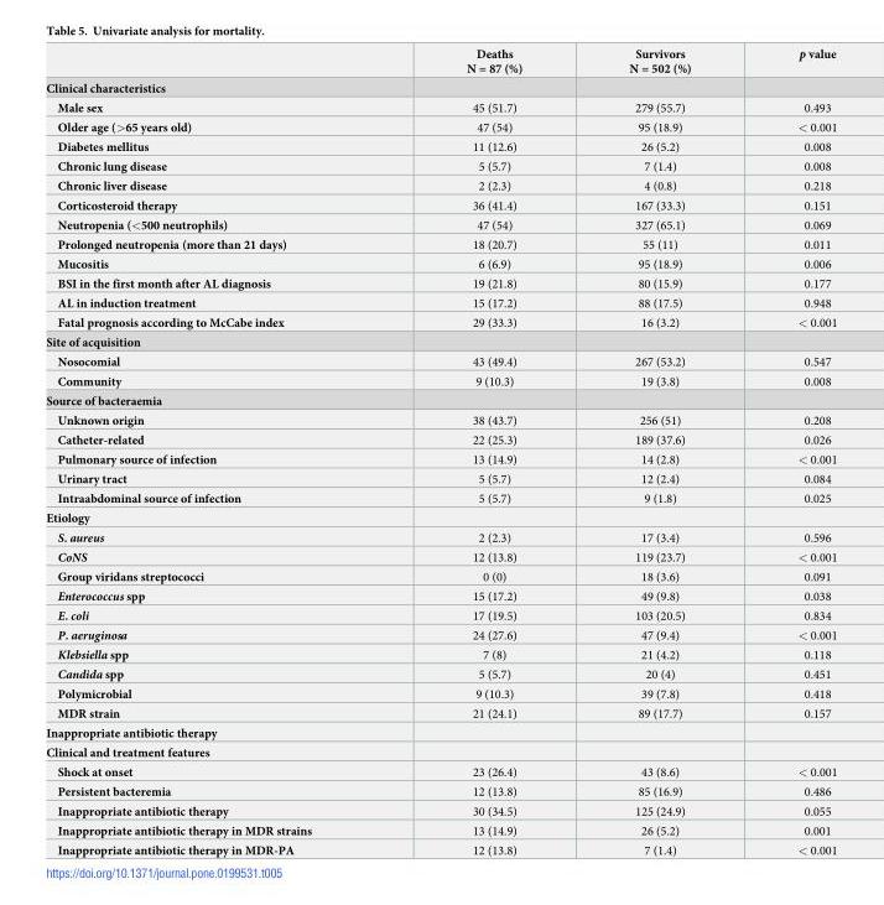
<table><thead><tr><td></td><td>Deaths N = 87 (%)</td><td>Survivors N = 502 (%)</td><td>p value</td></tr></thead><tbody><tr><td colspan="4">Clinical characteristics</td></tr><tr><td>Male sex</td><td>45 (51.7)</td><td>279 (55.7)</td><td>0.493</td></tr><tr><td>Older age (&gt;65 years old)</td><td>47 (54)</td><td>95 (18.9)</td><td>&lt; 0.001</td></tr><tr><td>Diabetes mellitus</td><td>11 (12.6)</td><td>26 (5.2)</td><td>0.008</td></tr><tr><td>Chronic lung disease</td><td>5 (5.7)</td><td>7 (1.4)</td><td>0.008</td></tr><tr><td>Chronic liver disease</td><td>2 (2.3)</td><td>4 (0.8)</td><td>0.218</td></tr><tr><td>Corticosteroid therapy</td><td>36 (41.4)</td><td>167 (33.3)</td><td>0.151</td></tr><tr><td>Neutropenia (&lt;500 neutrophils)</td><td>47 (54)</td><td>327 (65.1)</td><td>0.069</td></tr><tr><td>Prolonged neutropenia (more than 21 days)</td><td>18 (20.7)</td><td>55 (11)</td><td>0.011</td></tr><tr><td>Mucositis</td><td>6 (6.9)</td><td>95 (18.9)</td><td>0.006</td></tr><tr><td>BSI in the first month after AL diagnosis</td><td>19 (21.8)</td><td>80 (15.9)</td><td>0.177</td></tr><tr><td>AL in induction treatment</td><td>15 (17.2)</td><td>88 (17.5)</td><td>0.948</td></tr><tr><td>Fatal prognosis according to McCabe index</td><td>29 (33.3)</td><td>16 (3.2)</td><td>&lt; 0.001</td></tr><tr><td colspan="4">Site of acquisition</td></tr><tr><td>Nosocomial</td><td>43 (49.4)</td><td>267 (53.2)</td><td>0.547</td></tr><tr><td>Community</td><td>9 (10.3)</td><td>19 (3.8)</td><td>0.008</td></tr><tr><td colspan="4">Source of bacteraemia</td></tr><tr><td>Unknown origin</td><td>38 (43.7)</td><td>256 (51)</td><td>0.208</td></tr><tr><td>Catheter-related</td><td>22 (25.3)</td><td>189 (37.6)</td><td>0.026</td></tr><tr><td>Pulmonary source of infection</td><td>13 (14.9)</td><td>14 (2.8)</td><td>&lt; 0.001</td></tr><tr><td>Urinary tract</td><td>5 (5.7)</td><td>12 (2.4)</td><td>0.084</td></tr><tr><td>Intraabdominal source of infection</td><td>5 (5.7)</td><td>9 (1.8)</td><td>0.025</td></tr><tr><td colspan="4">Etiology</td></tr><tr><td>S. aureus</td><td>2 (2.3)</td><td>17 (3.4)</td><td>0.596</td></tr><tr><td>CoNS</td><td>12 (13.8)</td><td>119 (23.7)</td><td>&lt; 0.001</td></tr><tr><td>Group viridans streptococci</td><td>0 (0)</td><td>18 (3.6)</td><td>0.091</td></tr><tr><td>Enterococcus spp</td><td>15 (17.2)</td><td>49 (9.8)</td><td>0.038</td></tr><tr><td>E. coli</td><td>17 (19.5)</td><td>103 (20.5)</td><td>0.834</td></tr><tr><td>P. aeruginosa</td><td>24 (27.6)</td><td>47 (9.4)</td><td>&lt; 0.001</td></tr><tr><td>Klebsiella spp</td><td>7 (8)</td><td>21 (4.2)</td><td>0.118</td></tr><tr><td>Candida spp</td><td>5 (5.7)</td><td>20 (4)</td><td>0.451</td></tr><tr><td>Polymicrobial</td><td>9 (10.3)</td><td>39 (7.8)</td><td>0.418</td></tr><tr><td>MDR strain</td><td>21 (24.1)</td><td>89 (17.7)</td><td>0.157</td></tr><tr><td colspan="4">Inappropriate antibiotic therapy</td></tr><tr><td colspan="4">Clinical and treatment features</td></tr><tr><td>Shock at onset</td><td>23 (26.4)</td><td>43 (8.6)</td><td>&lt; 0.001</td></tr><tr><td>Persistent bacteremia</td><td>12 (13.8)</td><td>85 (16.9)</td><td>0.486</td></tr><tr><td>Inappropriate antibiotic therapy</td><td>30 (34.5)</td><td>125 (24.9)</td><td>0.055</td></tr><tr><td>Inappropriate antibiotic therapy in MDR strains</td><td>13 (14.9)</td><td>26 (5.2)</td><td>0.001</td></tr><tr><td>Inappropriate antibiotic therapy in MDR-PA</td><td>12 (13.8)</td><td>7 (1.4)</td><td>&lt; 0.001</td></tr></tbody></table>